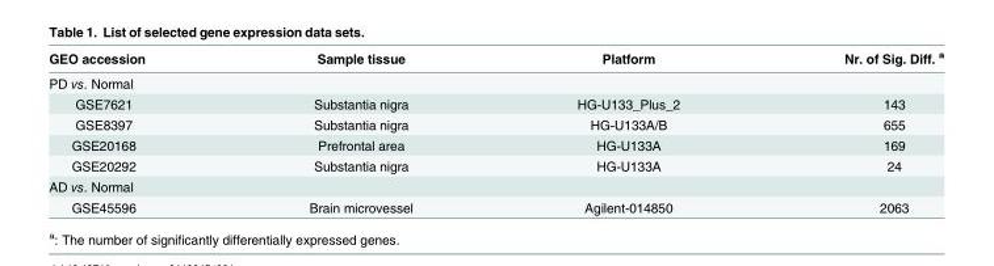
<table><thead><tr><td>GEO accession</td><td>Sample tissue</td><td>Platform</td><td>Nr. of Sig. Diff. <sup>a</sup></td></tr></thead><tbody><tr><td colspan="4">PD vs. Normal</td></tr><tr><td>GSE7621</td><td>Substantia nigra</td><td>HG-U133_Plus_2</td><td>143</td></tr><tr><td>GSE8397</td><td>Substantia nigra</td><td>HG-U133A/B</td><td>655</td></tr><tr><td>GSE20168</td><td>Prefrontal area</td><td>HG-U133A</td><td>169</td></tr><tr><td>GSE20292</td><td>Substantia nigra</td><td>HG-U133A</td><td>24</td></tr><tr><td colspan="4">AD vs. Normal</td></tr><tr><td>GSE45596</td><td>Brain microvessel</td><td>Agilent-014850</td><td>2063</td></tr></tbody></table>